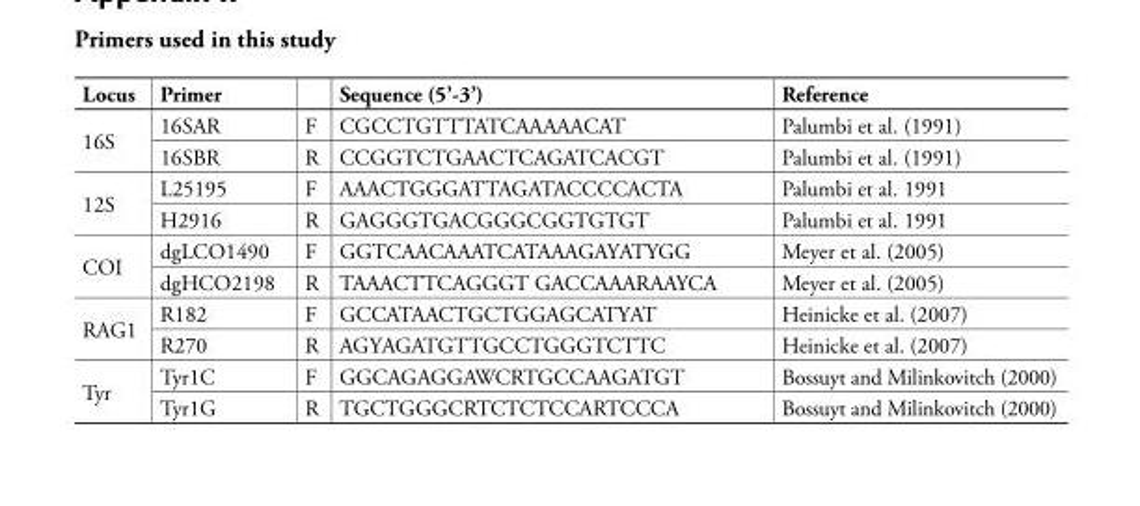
<table><thead><tr><td>Locus</td><td>Primer</td><td></td><td>Sequence (5’-3’)</td><td>Reference</td></tr></thead><tbody><tr><td rowspan="2">16S</td><td>16SAR</td><td>F</td><td>CGCCTGTTTATCAAAAACAT</td><td>Palumbi et al. (1991)</td></tr><tr><td>16SBR</td><td>R</td><td>CCGGTCTGAACTCAGATCACGT</td><td>Palumbi et al. (1991)</td></tr><tr><td rowspan="2">12S</td><td>L25195</td><td>F</td><td>AAACTGGGATTAGATACCCCACTA</td><td>Palumbi et al. 1991</td></tr><tr><td>H2916</td><td>R</td><td>GAGGGTGACGGGCGGTGTGT</td><td>Palumbi et al. 1991</td></tr><tr><td rowspan="2">COI</td><td>dgLCO1490</td><td>F</td><td>GGTCAACAAATCATAAAGAYATYGG</td><td>Meyer et al. (2005)</td></tr><tr><td>dgHCO2198</td><td>R</td><td>TAAACTTCAGGGT GACCAAARAAYCA</td><td>Meyer et al. (2005)</td></tr><tr><td rowspan="2">RAG1</td><td>R182</td><td>F</td><td>GCCATAACTGCTGGAGCATYAT</td><td>Heinicke et al. (2007)</td></tr><tr><td>R270</td><td>R</td><td>AGYAGATGTTGCCTGGGTCTTC</td><td>Heinicke et al. (2007)</td></tr><tr><td rowspan="2">Tyr</td><td>Tyr1C</td><td>F</td><td>GGCAGAGGAWCRTGCCAAGATGT</td><td>Bossuyt and Milinkovitch (2000)</td></tr><tr><td>Tyr1G</td><td>R</td><td>TGCTGGGCRTCTCTCCARTCCCA</td><td>Bossuyt and Milinkovitch (2000)</td></tr></tbody></table>